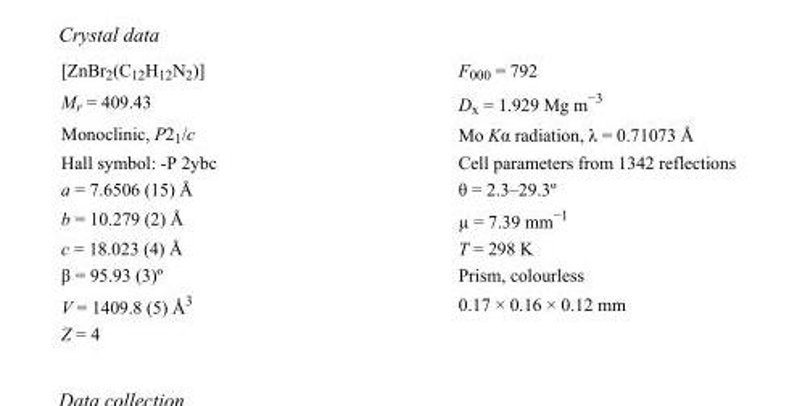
<table><tbody><tr><td>[ZnBr<sub>2</sub>(C<sub>12</sub>H<sub>12</sub>N<sub>2</sub>)]</td><td>F000 = 792</td></tr><tr><td>M<sub>r</sub> = 409.43</td><td>D<sub>x</sub> = 1.929 Mg m<sup>−3</sup></td></tr><tr><td>Monoclinic, P2<sub>1</sub>/c</td><td>Mo Kα radiation, λ = 0.71073 Å</td></tr><tr><td>Hall symbol: -P 2ybc</td><td>Cell parameters from 1342 reflections</td></tr><tr><td>a = 7.6506 (15) Å</td><td>θ = 2.3–29.3º</td></tr><tr><td>b = 10.279 (2) Å</td><td>µ = 7.39 mm<sup>−1</sup></td></tr><tr><td>c = 18.023 (4) Å</td><td>T = 298 K</td></tr><tr><td>β = 95.93 (3)º</td><td>Prism, colourless</td></tr><tr><td>V = 1409.8 (5) Å<sup>3</sup></td><td>0.17 × 0.16 × 0.12 mm</td></tr><tr><td>Z = 4</td><td></td></tr></tbody></table>